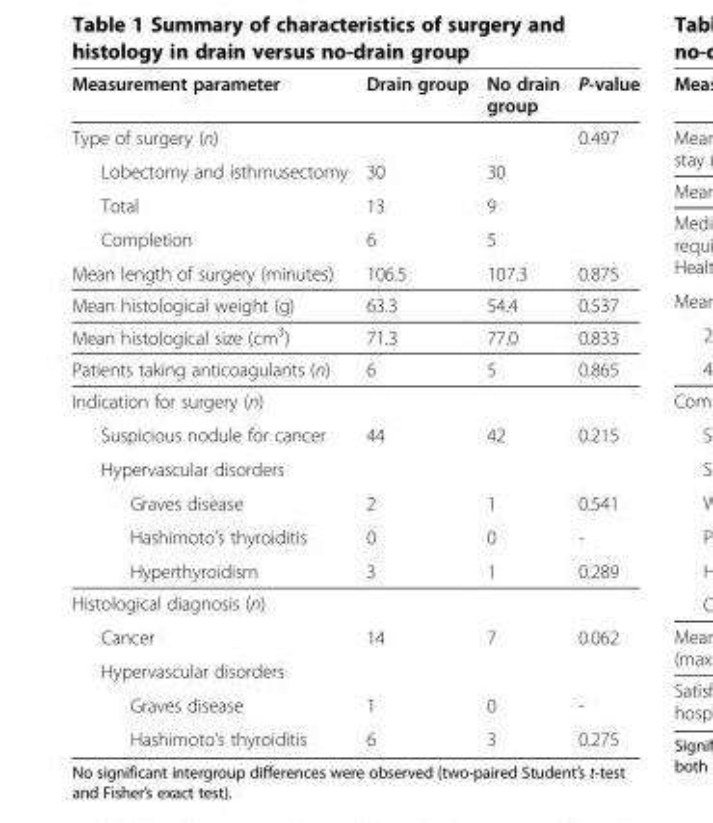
<table><thead><tr><td>Measurement parameter</td><td>Drain group</td><td>No drain group</td><td>P-value</td></tr></thead><tbody><tr><td>Type of surgery (n)</td><td></td><td></td><td>0.497</td></tr><tr><td>Lobectomy and isthmusectomy</td><td>30</td><td>30</td><td></td></tr><tr><td>Total</td><td>13</td><td>9</td><td></td></tr><tr><td>Completion</td><td>6</td><td>5</td><td></td></tr><tr><td>Mean length of surgery (minutes)</td><td>106.5</td><td>107.3</td><td>0.875</td></tr><tr><td>Mean histological weight (g)</td><td>63.3</td><td>54.4</td><td>0.537</td></tr><tr><td>Mean histological size (cm<sup>3</sup>)</td><td>71.3</td><td>77.0</td><td>0.833</td></tr><tr><td>Patients taking anticoagulants (n)</td><td>6</td><td>5</td><td>0.865</td></tr><tr><td colspan="4">Indication for surgery (n)</td></tr><tr><td>Suspicious nodule for cancer</td><td>44</td><td>42</td><td>0.215</td></tr><tr><td colspan="4">Hypervascular disorders</td></tr><tr><td>Graves disease</td><td>2</td><td>1</td><td>0.541</td></tr><tr><td>Hashimoto’s thyroiditis</td><td>0</td><td>0</td><td>-</td></tr><tr><td>Hyperthyroidism</td><td>3</td><td>1</td><td>0.289</td></tr><tr><td colspan="4">Histological diagnosis (n)</td></tr><tr><td>Cancer</td><td>14</td><td>7</td><td>0.062</td></tr><tr><td colspan="4">Hypervascular disorders</td></tr><tr><td>Graves disease</td><td>1</td><td>0</td><td>-</td></tr><tr><td>Hashimoto’s thyroiditis</td><td>6</td><td>3</td><td>0.275</td></tr></tbody></table>